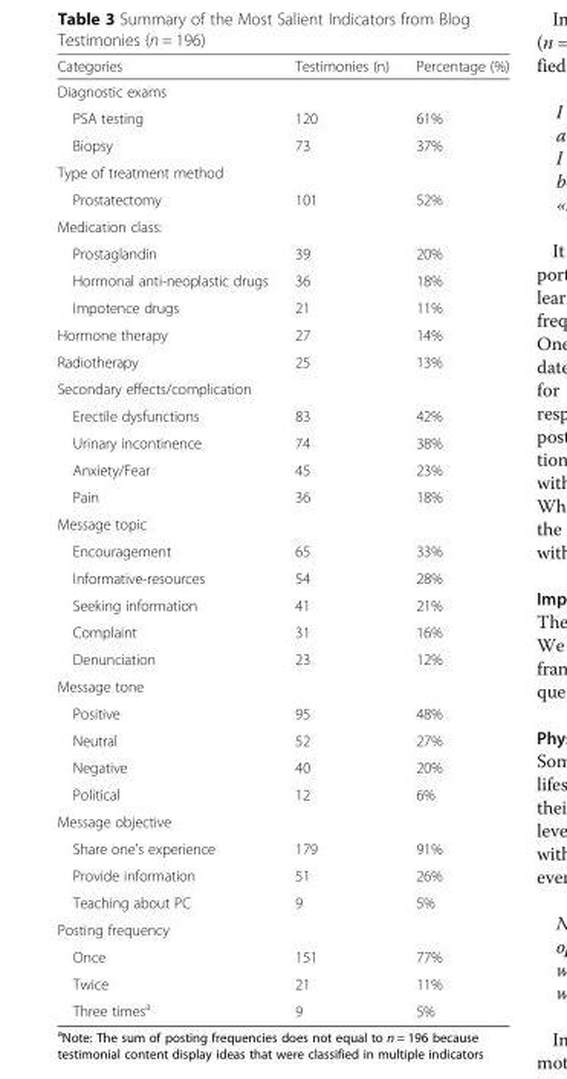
<table><thead><tr><td>Categories</td><td>Testimonies (n)</td><td>Percentage (%)</td></tr></thead><tbody><tr><td colspan="3">Diagnostic exams</td></tr><tr><td>PSA testing</td><td>120</td><td>61%</td></tr><tr><td>Biopsy</td><td>73</td><td>37%</td></tr><tr><td colspan="3">Type of treatment method</td></tr><tr><td>Prostatectomy</td><td>101</td><td>52%</td></tr><tr><td colspan="3">Medication class:</td></tr><tr><td>Prostaglandin</td><td>39</td><td>20%</td></tr><tr><td>Hormonal anti-neoplastic drugs</td><td>36</td><td>18%</td></tr><tr><td>Impotence drugs</td><td>21</td><td>11%</td></tr><tr><td>Hormone therapy</td><td>27</td><td>14%</td></tr><tr><td>Radiotherapy</td><td>25</td><td>13%</td></tr><tr><td colspan="3">Secondary effects/complication</td></tr><tr><td>Erectile dysfunctions</td><td>83</td><td>42%</td></tr><tr><td>Urinary incontinence</td><td>74</td><td>38%</td></tr><tr><td>Anxiety/Fear</td><td>45</td><td>23%</td></tr><tr><td>Pain</td><td>36</td><td>18%</td></tr><tr><td colspan="3">Message topic</td></tr><tr><td>Encouragement</td><td>65</td><td>33%</td></tr><tr><td>Informative-resources</td><td>54</td><td>28%</td></tr><tr><td>Seeking information</td><td>41</td><td>21%</td></tr><tr><td>Complaint</td><td>31</td><td>16%</td></tr><tr><td>Denunciation</td><td>23</td><td>12%</td></tr><tr><td colspan="3">Message tone</td></tr><tr><td>Positive</td><td>95</td><td>48%</td></tr><tr><td>Neutral</td><td>52</td><td>27%</td></tr><tr><td>Negative</td><td>40</td><td>20%</td></tr><tr><td>Political</td><td>12</td><td>6%</td></tr><tr><td colspan="3">Message objective</td></tr><tr><td>Share one’s experience</td><td>179</td><td>91%</td></tr><tr><td>Provide information</td><td>51</td><td>26%</td></tr><tr><td>Teaching about PC</td><td>9</td><td>5%</td></tr><tr><td colspan="3">Posting frequency</td></tr><tr><td>Once</td><td>151</td><td>77%</td></tr><tr><td>Twice</td><td>21</td><td>11%</td></tr><tr><td>Three times<sup>a</sup></td><td>9</td><td>5%</td></tr></tbody></table>